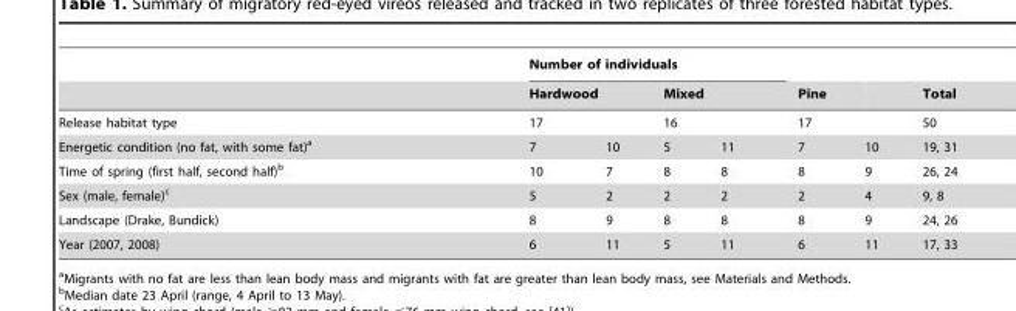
<table><thead><tr><td rowspan="3">Release habitat type</td><td colspan="4">Number of individuals</td><td rowspan="3">Pine 17</td><td rowspan="3"></td><td rowspan="3">Total 50</td></tr><tr><td colspan="2">Hardwood</td><td colspan="2">Mixed</td></tr><tr><td>17</td><td></td><td>16</td><td></td></tr></thead><tbody><tr><td>Energetic condition (no fat, with some fat)<sup>a</sup></td><td>7</td><td>10</td><td>5</td><td>11</td><td>7</td><td>10</td><td>19, 31</td></tr><tr><td>Time of spring (first half, second half)<sup>b</sup></td><td>10</td><td>7</td><td>8</td><td>8</td><td>8</td><td>9</td><td>26, 24</td></tr><tr><td>Sex (male, female)<sup>c</sup></td><td>5</td><td>2</td><td>2</td><td>2</td><td>2</td><td>4</td><td>9, 8</td></tr><tr><td>Landscape (Drake, Bundick)</td><td>8</td><td>9</td><td>8</td><td>8</td><td>8</td><td>9</td><td>24, 26</td></tr><tr><td>Year (2007, 2008)</td><td>6</td><td>11</td><td>5</td><td>11</td><td>6</td><td>11</td><td>17, 33</td></tr></tbody></table>